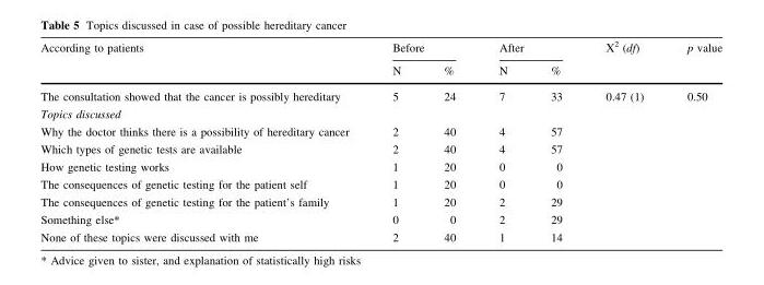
<table><thead><tr><td rowspan="2">According to patients</td><td colspan="2">Before</td><td colspan="2">After</td><td rowspan="2">Χ<sup>2</sup> (df)</td><td rowspan="2">p value</td></tr><tr><td>N</td><td>%</td><td>N</td><td>%</td></tr></thead><tbody><tr><td>The consultation showed that the cancer is possibly hereditary</td><td>5</td><td>24</td><td>7</td><td>33</td><td>0.47 (1)</td><td>0.50</td></tr><tr><td colspan="7">Topics discussed</td></tr><tr><td>Why the doctor thinks there is a possibility of hereditary cancer</td><td>2</td><td>40</td><td>4</td><td>57</td><td></td><td></td></tr><tr><td>Which types of genetic tests are available</td><td>2</td><td>40</td><td>4</td><td>57</td><td></td><td></td></tr><tr><td>How genetic testing works</td><td>1</td><td>20</td><td>0</td><td>0</td><td></td><td></td></tr><tr><td>The consequences of genetic testing for the patient self</td><td>1</td><td>20</td><td>0</td><td>0</td><td></td><td></td></tr><tr><td>The consequences of genetic testing for the patient’s family</td><td>1</td><td>20</td><td>2</td><td>29</td><td></td><td></td></tr><tr><td>Something else*</td><td>0</td><td>0</td><td>2</td><td>29</td><td></td><td></td></tr><tr><td>None of these topics were discussed with me</td><td>2</td><td>40</td><td>1</td><td>14</td><td></td><td></td></tr></tbody></table>